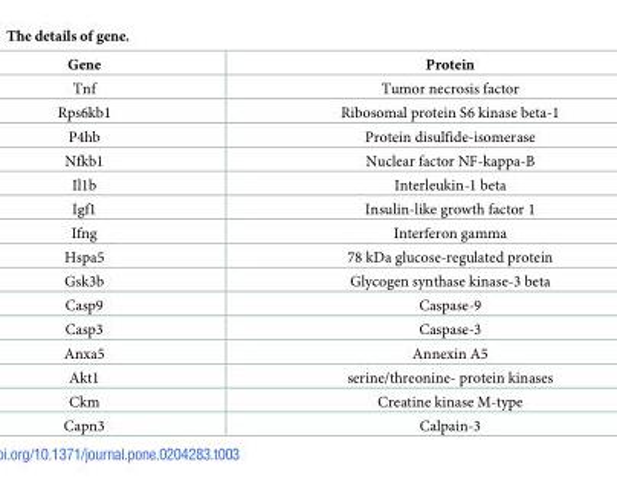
<table><thead><tr><td>Gene</td><td>Protein</td></tr></thead><tbody><tr><td>Tnf</td><td>Tumor necrosis factor</td></tr><tr><td>Rps6kb1</td><td>Ribosomal protein S6 kinase beta-1</td></tr><tr><td>P4hb</td><td>Protein disulfide-isomerase</td></tr><tr><td>Nfkb1</td><td>Nuclear factor NF-kappa-B</td></tr><tr><td>Il1b</td><td>Interleukin-1 beta</td></tr><tr><td>Igf1</td><td>Insulin-like growth factor 1</td></tr><tr><td>Ifng</td><td>Interferon gamma</td></tr><tr><td>Hspa5</td><td>78 kDa glucose-regulated protein</td></tr><tr><td>Gsk3b</td><td>Glycogen synthase kinase-3 beta</td></tr><tr><td>Casp9</td><td>Caspase-9</td></tr><tr><td>Casp3</td><td>Caspase-3</td></tr><tr><td>Anxa5</td><td>Annexin A5</td></tr><tr><td>Akt1</td><td>serine/threonine- protein kinases</td></tr><tr><td>Ckm</td><td>Creatine kinase M-type</td></tr><tr><td>Capn3</td><td>Calpain-3</td></tr></tbody></table>